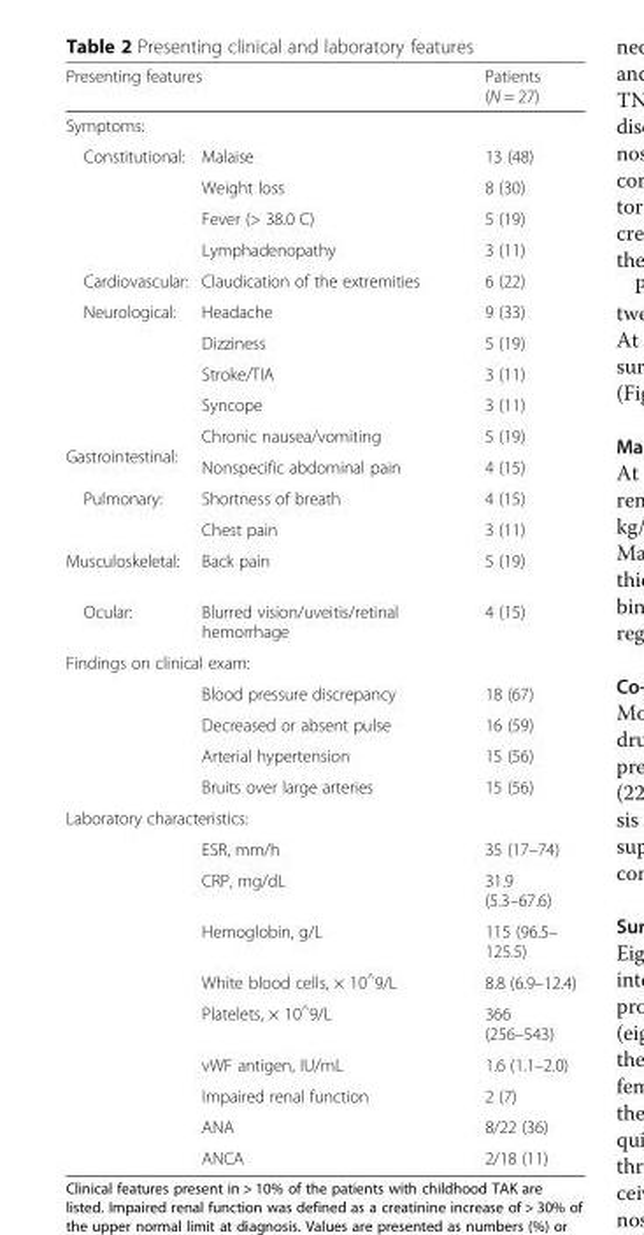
<table><thead><tr><td colspan="2">Presenting features</td><td rowspan="2">Patients (N = 27)</td></tr><tr><td>Symptoms:</td><td></td></tr></thead><tbody><tr><td rowspan="4">Constitutional:</td><td>Malaise</td><td>13 (48)</td></tr><tr><td>Weight loss</td><td>8 (30)</td></tr><tr><td>Fever (&gt; 38.0 C)</td><td>5 (19)</td></tr><tr><td>Lymphadenopathy</td><td>3 (11)</td></tr><tr><td>Cardiovascular:</td><td>Claudication of the extremities</td><td>6 (22)</td></tr><tr><td rowspan="4">Neurological:</td><td>Headache</td><td>9 (33)</td></tr><tr><td>Dizziness</td><td>5 (19)</td></tr><tr><td>Stroke/TIA</td><td>3 (11)</td></tr><tr><td>Syncope</td><td>3 (11)</td></tr><tr><td rowspan="2">Gastrointestinal:</td><td>Chronic nausea/vomiting</td><td>5 (19)</td></tr><tr><td>Nonspecific abdominal pain</td><td>4 (15)</td></tr><tr><td rowspan="2">Pulmonary:</td><td>Shortness of breath</td><td>4 (15)</td></tr><tr><td>Chest pain</td><td>3 (11)</td></tr><tr><td>Musculoskeletal:</td><td>Back pain</td><td>5 (19)</td></tr><tr><td>Ocular:</td><td>Blurred vision/uveitis/retinal hemorrhage</td><td>4 (15)</td></tr><tr><td colspan="3">Findings on clinical exam:</td></tr><tr><td rowspan="4"></td><td>Blood pressure discrepancy</td><td>18 (67)</td></tr><tr><td>Decreased or absent pulse</td><td>16 (59)</td></tr><tr><td>Arterial hypertension</td><td>15 (56)</td></tr><tr><td>Bruits over large arteries</td><td>15 (56)</td></tr><tr><td colspan="3">Laboratory characteristics:</td></tr><tr><td rowspan="9"></td><td>ESR, mm/h</td><td>35 (17–74)</td></tr><tr><td>CRP, mg/dL</td><td>31.9 (5.3–67.6)</td></tr><tr><td>Hemoglobin, g/L</td><td>115 (96.5– 125.5)</td></tr><tr><td>White blood cells, × 10<sup>^</sup>9/L</td><td>8.8 (6.9–12.4)</td></tr><tr><td>Platelets, × 10<sup>^</sup>9/L</td><td>366 (256–543)</td></tr><tr><td>vWF antigen, IU/mL</td><td>1.6 (1.1–2.0)</td></tr><tr><td>Impaired renal function</td><td>2 (7)</td></tr><tr><td>ANA</td><td>8/22 (36)</td></tr><tr><td>ANCA</td><td>2/18 (11)</td></tr></tbody></table>